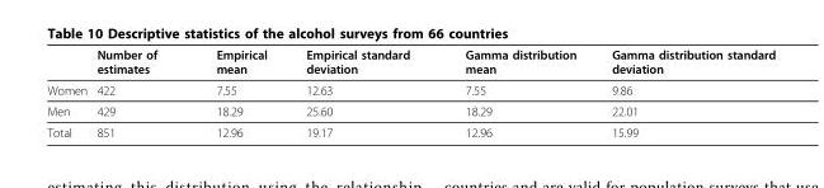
<table><thead><tr><td></td><td>Number of estimates</td><td>Empirical mean</td><td>Empirical standard deviation</td><td>Gamma distribution mean</td><td>Gamma distribution standard deviation</td></tr></thead><tbody><tr><td>Women</td><td>422</td><td>7.55</td><td>12.63</td><td>7.55</td><td>9.86</td></tr><tr><td>Men</td><td>429</td><td>18.29</td><td>25.60</td><td>18.29</td><td>22.01</td></tr><tr><td>Total</td><td>851</td><td>12.96</td><td>19.17</td><td>12.96</td><td>15.99</td></tr></tbody></table>